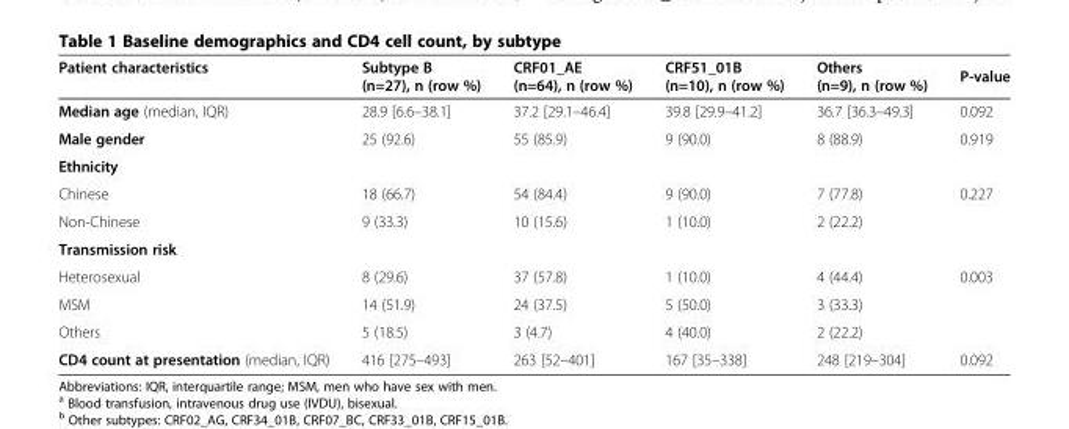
<table><thead><tr><td>Patient characteristics</td><td>Subtype B (n=27), n (row %)</td><td>CRF01_AE (n=64), n (row %)</td><td>CRF51_01B (n=10), n (row %)</td><td>Others (n=9), n (row %)</td><td>P-value</td></tr></thead><tbody><tr><td>Median age (median, IQR)</td><td>28.9 [6.6–38.1]</td><td>37.2 [29.1–46.4]</td><td>39.8 [29.9–41.2]</td><td>36.7 [36.3–49.3]</td><td>0.092</td></tr><tr><td>Male gender</td><td>25 (92.6)</td><td>55 (85.9)</td><td>9 (90.0)</td><td>8 (88.9)</td><td>0.919</td></tr><tr><td colspan="6">Ethnicity</td></tr><tr><td>Chinese</td><td>18 (66.7)</td><td>54 (84.4)</td><td>9 (90.0)</td><td>7 (77.8)</td><td>0.227</td></tr><tr><td>Non-Chinese</td><td>9 (33.3)</td><td>10 (15.6)</td><td>1 (10.0)</td><td>2 (22.2)</td><td></td></tr><tr><td colspan="6">Transmission risk</td></tr><tr><td>Heterosexual</td><td>8 (29.6)</td><td>37 (57.8)</td><td>1 (10.0)</td><td>4 (44.4)</td><td>0.003</td></tr><tr><td>MSM</td><td>14 (51.9)</td><td>24 (37.5)</td><td>5 (50.0)</td><td>3 (33.3)</td><td></td></tr><tr><td>Others</td><td>5 (18.5)</td><td>3 (4.7)</td><td>4 (40.0)</td><td>2 (22.2)</td><td></td></tr><tr><td>CD4 count at presentation (median, IQR)</td><td>416 [275–493]</td><td>263 [52–401]</td><td>167 [35–338]</td><td>248 [219–304]</td><td>0.092</td></tr></tbody></table>